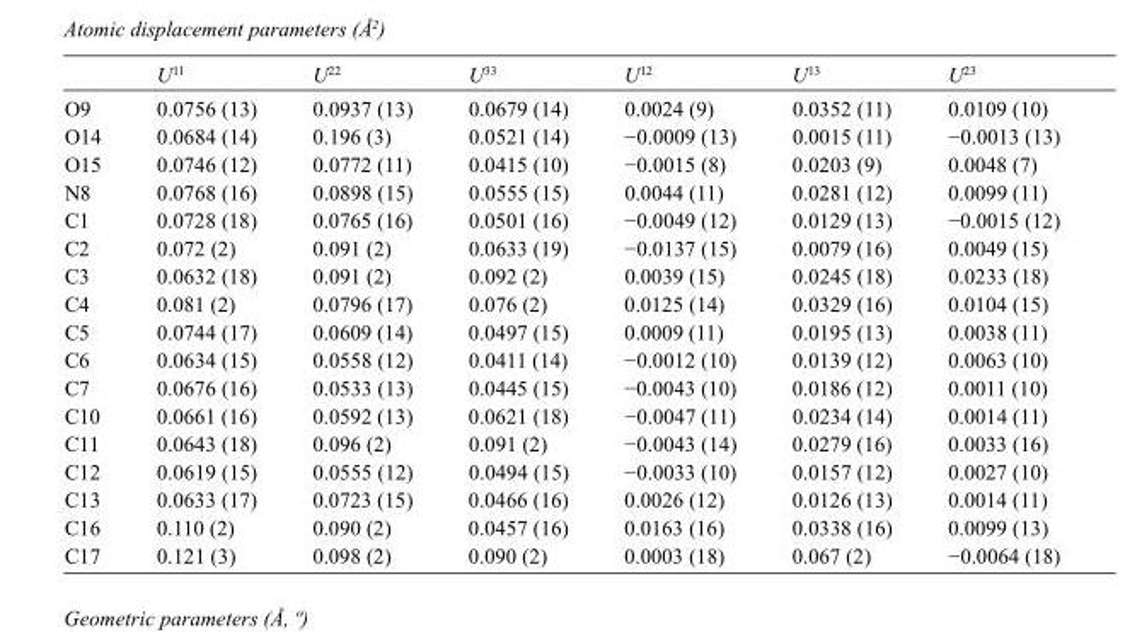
<table><thead><tr><td></td><td>U<sup>11</sup></td><td>U<sup>22</sup></td><td>U<sup>33</sup></td><td>U<sup>12</sup></td><td>U<sup>13</sup></td><td>U<sup>23</sup></td></tr></thead><tbody><tr><td>O9</td><td>0.0756 (13)</td><td>0.0937 (13)</td><td>0.0679 (14)</td><td>0.0024 (9)</td><td>0.0352 (11)</td><td>0.0109 (10)</td></tr><tr><td>O14</td><td>0.0684 (14)</td><td>0.196 (3)</td><td>0.0521 (14)</td><td>−0.0009 (13)</td><td>0.0015 (11)</td><td>−0.0013 (13)</td></tr><tr><td>O15</td><td>0.0746 (12)</td><td>0.0772 (11)</td><td>0.0415 (10)</td><td>−0.0015 (8)</td><td>0.0203 (9)</td><td>0.0048 (7)</td></tr><tr><td>N8</td><td>0.0768 (16)</td><td>0.0898 (15)</td><td>0.0555 (15)</td><td>0.0044 (11)</td><td>0.0281 (12)</td><td>0.0099 (11)</td></tr><tr><td>C1</td><td>0.0728 (18)</td><td>0.0765 (16)</td><td>0.0501 (16)</td><td>−0.0049 (12)</td><td>0.0129 (13)</td><td>−0.0015 (12)</td></tr><tr><td>C2</td><td>0.072 (2)</td><td>0.091 (2)</td><td>0.0633 (19)</td><td>−0.0137 (15)</td><td>0.0079 (16)</td><td>0.0049 (15)</td></tr><tr><td>C3</td><td>0.0632 (18)</td><td>0.091 (2)</td><td>0.092 (2)</td><td>0.0039 (15)</td><td>0.0245 (18)</td><td>0.0233 (18)</td></tr><tr><td>C4</td><td>0.081 (2)</td><td>0.0796 (17)</td><td>0.076 (2)</td><td>0.0125 (14)</td><td>0.0329 (16)</td><td>0.0104 (15)</td></tr><tr><td>C5</td><td>0.0744 (17)</td><td>0.0609 (14)</td><td>0.0497 (15)</td><td>0.0009 (11)</td><td>0.0195 (13)</td><td>0.0038 (11)</td></tr><tr><td>C6</td><td>0.0634 (15)</td><td>0.0558 (12)</td><td>0.0411 (14)</td><td>−0.0012 (10)</td><td>0.0139 (12)</td><td>0.0063 (10)</td></tr><tr><td>C7</td><td>0.0676 (16)</td><td>0.0533 (13)</td><td>0.0445 (15)</td><td>−0.0043 (10)</td><td>0.0186 (12)</td><td>0.0011 (10)</td></tr><tr><td>C10</td><td>0.0661 (16)</td><td>0.0592 (13)</td><td>0.0621 (18)</td><td>−0.0047 (11)</td><td>0.0234 (14)</td><td>0.0014 (11)</td></tr><tr><td>C11</td><td>0.0643 (18)</td><td>0.096 (2)</td><td>0.091 (2)</td><td>−0.0043 (14)</td><td>0.0279 (16)</td><td>0.0033 (16)</td></tr><tr><td>C12</td><td>0.0619 (15)</td><td>0.0555 (12)</td><td>0.0494 (15)</td><td>−0.0033 (10)</td><td>0.0157 (12)</td><td>0.0027 (10)</td></tr><tr><td>C13</td><td>0.0633 (17)</td><td>0.0723 (15)</td><td>0.0466 (16)</td><td>0.0026 (12)</td><td>0.0126 (13)</td><td>0.0014 (11)</td></tr><tr><td>C16</td><td>0.110 (2)</td><td>0.090 (2)</td><td>0.0457 (16)</td><td>0.0163 (16)</td><td>0.0338 (16)</td><td>0.0099 (13)</td></tr><tr><td>C17</td><td>0.121 (3)</td><td>0.098 (2)</td><td>0.090 (2)</td><td>0.0003 (18)</td><td>0.067 (2)</td><td>−0.0064 (18)</td></tr></tbody></table>